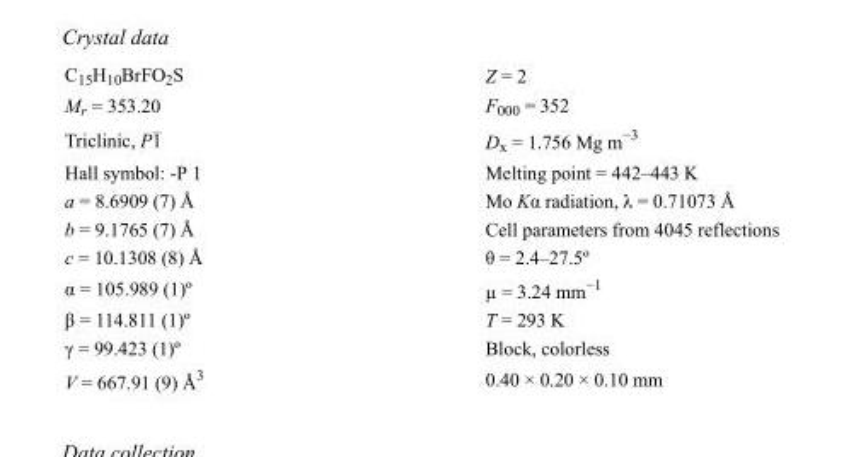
<table><tbody><tr><td>C<sub>15</sub>H<sub>10</sub>BrFO<sub>2</sub>S</td><td>Z = 2</td></tr><tr><td>M<sub>r</sub> = 353.20</td><td>F000 = 352</td></tr><tr><td>Triclinic, P1</td><td>D<sub>x</sub> = 1.756 Mg m<sup>−3</sup></td></tr><tr><td>Hall symbol: -P 1</td><td>Melting point = 442–443 K</td></tr><tr><td>a = 8.6909 (7) Å</td><td>Mo Kα radiation, λ = 0.71073 Å</td></tr><tr><td>b = 9.1765 (7) Å</td><td>Cell parameters from 4045 reflections</td></tr><tr><td>c = 10.1308 (8) Å</td><td>θ = 2.4–27.5º</td></tr><tr><td>α = 105.989 (1)º</td><td>µ = 3.24 mm<sup>−1</sup></td></tr><tr><td>β = 114.811 (1)º</td><td>T = 293 K</td></tr><tr><td>γ = 99.423 (1)º</td><td>Block, colorless</td></tr><tr><td>V = 667.91 (9) Å<sup>3</sup></td><td>0.40 × 0.20 × 0.10 mm</td></tr></tbody></table>